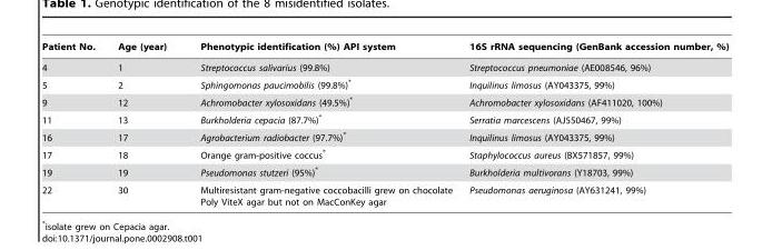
<table><thead><tr><td>Patient No.</td><td>Age (year)</td><td>Phenotypic identification (%) API system</td><td>16S rRNA sequencing (GenBank accession number, %)</td></tr></thead><tbody><tr><td>4</td><td>1</td><td>Streptococcus salivarius (99.8%)</td><td>Streptococcus pneumoniae (AE008546, 96%)</td></tr><tr><td>5</td><td>2</td><td>Sphingomonas paucimobilis (99.8%)*</td><td>Inquilinus limosus (AY043375, 99%)</td></tr><tr><td>9</td><td>12</td><td>Achromobacter xylosoxidans (49.5%)*</td><td>Achromobacter xylosoxidans (AF411020, 100%)</td></tr><tr><td>11</td><td>13</td><td>Burkholderia cepacia (87.7%)*</td><td>Serratia marcescens (AJ550467, 99%)</td></tr><tr><td>16</td><td>17</td><td>Agrobacterium radiobacter (97.7%)*</td><td>Inquilinus limosus (AY043375, 99%)</td></tr><tr><td>17</td><td>18</td><td>Orange gram-positive coccus*</td><td>Staphylococcus aureus (BX571857, 99%)</td></tr><tr><td>19</td><td>19</td><td>Pseudomonas stutzeri (95%)*</td><td>Burkholderia multivorans (Y18703, 99%)</td></tr><tr><td>22</td><td>30</td><td>Multiresistant gram-negative coccobacilli grew on chocolate Poly ViteX agar but not on MacConKey agar</td><td>Pseudomonas aeruginosa (AY631241, 99%)</td></tr></tbody></table>